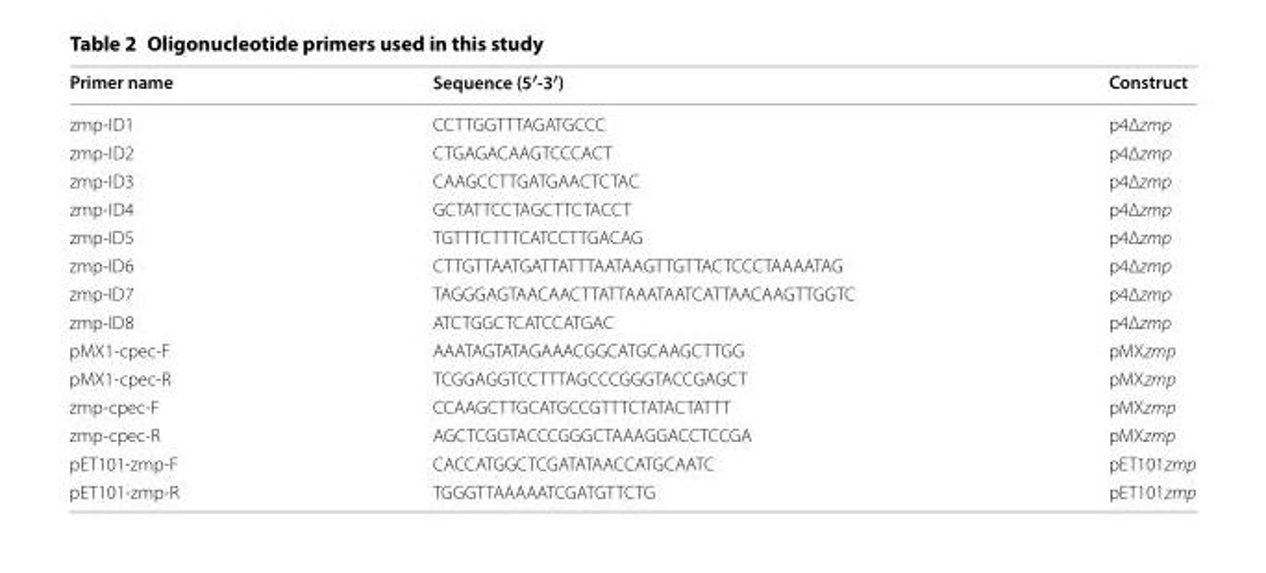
<table><thead><tr><td>Primer name</td><td>Sequence (5′‑3′)</td><td>Construct</td></tr></thead><tbody><tr><td>zmp‑ID1</td><td>CCT TGG TTT AGA TGCCC</td><td>p4Δzmp</td></tr><tr><td>zmp‑ID2</td><td>CTG AGA CAA GTC CCACT</td><td>p4Δzmp</td></tr><tr><td>zmp‑ID3</td><td>CAA GCC TTG ATG AAC TCT AC</td><td>p4Δzmp</td></tr><tr><td>zmp‑ID4</td><td>GCT ATT CCT AGC TTC TAC CT</td><td>p4Δzmp</td></tr><tr><td>zmp‑ID5</td><td>TGT TTC TTT CAT CCT TGA CAG</td><td>p4Δzmp</td></tr><tr><td>zmp‑ID6</td><td>CTT GTT AAT GAT TAT TTA ATA AGT TGT TAC TCC CTA AAA TAG</td><td>p4Δzmp</td></tr><tr><td>zmp‑ID7</td><td>TAG GGA GTA ACA ACT TAT TAA ATA ATC ATT AAC AAG TTG GTC</td><td>p4Δzmp</td></tr><tr><td>zmp‑ID8</td><td>ATC TGG CTC ATC CAT GAC</td><td>p4Δzmp</td></tr><tr><td>pMX1‑cpec‑F</td><td>AAA TAG TAT AGA AAC GGC ATG CAA GCT TGG</td><td>pMXzmp</td></tr><tr><td>pMX1‑cpec‑R</td><td>TCG GAG GTC CTT TAG CCC GGG TAC CGA GCT</td><td>pMXzmp</td></tr><tr><td>zmp‑cpec‑F</td><td>CCA AGC TTG CAT GCC GTT TCT ATA CTA TTT</td><td>pMXzmp</td></tr><tr><td>zmp‑cpec‑R</td><td>AGC TCG GTA CCC GGG CTA AAG GAC CTC CGA</td><td>pMXzmp</td></tr><tr><td>pET101‑zmp‑F</td><td>CAC CAT GGC TCG ATA TAA CCA TGC AATC</td><td>pET101zmp</td></tr><tr><td>pET101‑zmp‑R</td><td>TGG GTT AAA AAT CGA TGT TCTG</td><td>pET101zmp</td></tr></tbody></table>